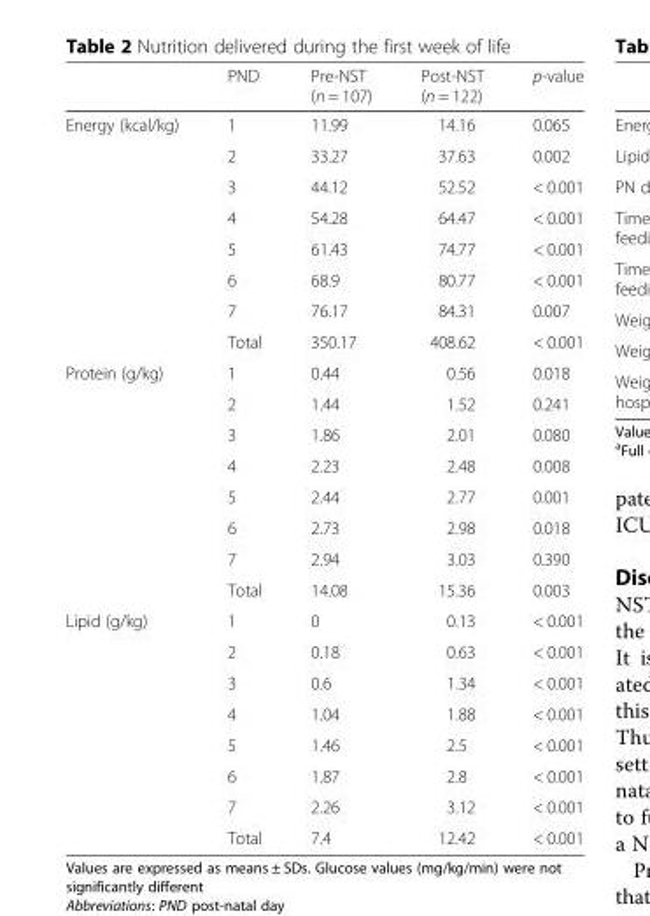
<table><thead><tr><td></td><td>PND</td><td>Pre-NST (n = 107)</td><td>Post-NST (n = 122)</td><td>p-value</td></tr></thead><tbody><tr><td rowspan="8">Energy (kcal/kg)</td><td>1</td><td>11.99</td><td>14.16</td><td>0.065</td></tr><tr><td>2</td><td>33.27</td><td>37.63</td><td>0.002</td></tr><tr><td>3</td><td>44.12</td><td>52.52</td><td>&lt; 0.001</td></tr><tr><td>4</td><td>54.28</td><td>64.47</td><td>&lt; 0.001</td></tr><tr><td>5</td><td>61.43</td><td>74.77</td><td>&lt; 0.001</td></tr><tr><td>6</td><td>68.9</td><td>80.77</td><td>&lt; 0.001</td></tr><tr><td>7</td><td>76.17</td><td>84.31</td><td>0.007</td></tr><tr><td>Total</td><td>350.17</td><td>408.62</td><td>&lt; 0.001</td></tr><tr><td rowspan="8">Protein (g/kg)</td><td>1</td><td>0.44</td><td>0.56</td><td>0.018</td></tr><tr><td>2</td><td>1.44</td><td>1.52</td><td>0.241</td></tr><tr><td>3</td><td>1.86</td><td>2.01</td><td>0.080</td></tr><tr><td>4</td><td>2.23</td><td>2.48</td><td>0.008</td></tr><tr><td>5</td><td>2.44</td><td>2.77</td><td>0.001</td></tr><tr><td>6</td><td>2.73</td><td>2.98</td><td>0.018</td></tr><tr><td>7</td><td>2.94</td><td>3.03</td><td>0.390</td></tr><tr><td>Total</td><td>14.08</td><td>15.36</td><td>0.003</td></tr><tr><td rowspan="8">Lipid (g/kg)</td><td>1</td><td>0</td><td>0.13</td><td>&lt; 0.001</td></tr><tr><td>2</td><td>0.18</td><td>0.63</td><td>&lt; 0.001</td></tr><tr><td>3</td><td>0.6</td><td>1.34</td><td>&lt; 0.001</td></tr><tr><td>4</td><td>1.04</td><td>1.88</td><td>&lt; 0.001</td></tr><tr><td>5</td><td>1.46</td><td>2.5</td><td>&lt; 0.001</td></tr><tr><td>6</td><td>1.87</td><td>2.8</td><td>&lt; 0.001</td></tr><tr><td>7</td><td>2.26</td><td>3.12</td><td>&lt; 0.001</td></tr><tr><td>Total</td><td>7.4</td><td>12.42</td><td>&lt; 0.001</td></tr></tbody></table>